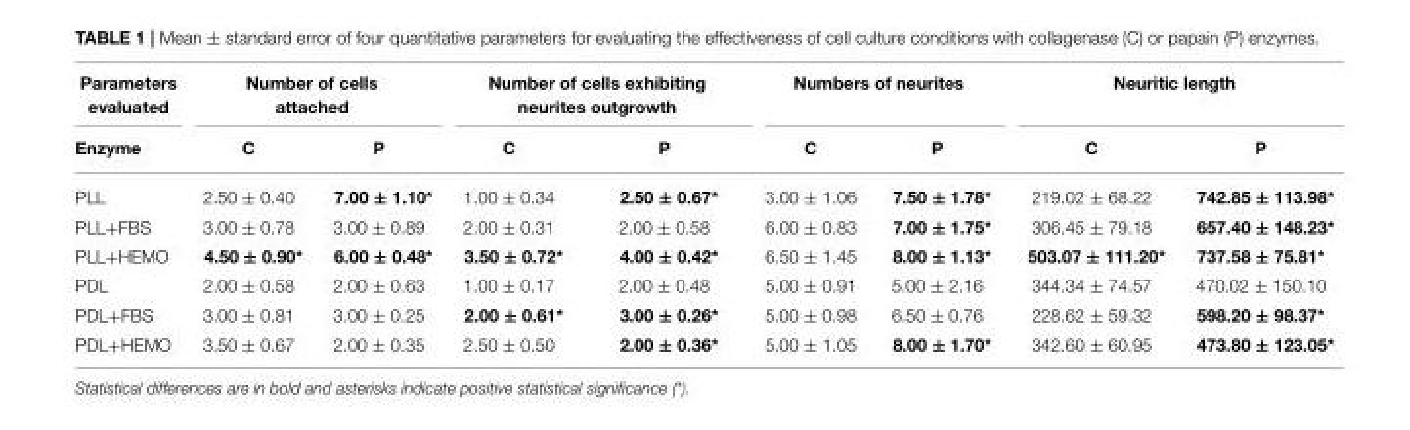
<table><thead><tr><td rowspan="2">Parameters evaluated Enzyme</td><td colspan="2">Number of cells attached</td><td colspan="2">Number of cells exhibiting neurites outgrowth</td><td colspan="2">Numbers of neurites</td><td colspan="2">Neuritic length</td></tr><tr><td>C</td><td>P</td><td>C</td><td>P</td><td>C</td><td>P</td><td>C</td><td>P</td></tr></thead><tbody><tr><td>PLL</td><td>2.50 ± 0.40</td><td>7.00 ± 1.10*</td><td>1.00 ± 0.34</td><td>2.50 ± 0.67*</td><td>3.00 ± 1.06</td><td>7.50 ± 1.78*</td><td>219.02 ± 68.22</td><td>742.85 ± 113.98*</td></tr><tr><td>PLL+FBS</td><td>3.00 ± 0.78</td><td>3.00 ± 0.89</td><td>2.00 ± 0.31</td><td>2.00 ± 0.58</td><td>6.00 ± 0.83</td><td>7.00 ± 1.75*</td><td>306.45 ± 79.18</td><td>657.40 ± 148.23*</td></tr><tr><td>PLL+HEMO</td><td>4.50 ± 0.90*</td><td>6.00 ± 0.48*</td><td>3.50 ± 0.72*</td><td>4.00 ± 0.42*</td><td>6.50 ± 1.45</td><td>8.00 ± 1.13*</td><td>503.07 ± 111.20*</td><td>737.58 ± 75.81*</td></tr><tr><td>PDL</td><td>2.00 ± 0.58</td><td>2.00 ± 0.63</td><td>1.00 ± 0.17</td><td>2.00 ± 0.48</td><td>5.00 ± 0.91</td><td>5.00 ± 2.16</td><td>344.34 ± 74.57</td><td>470.02 ± 150.10</td></tr><tr><td>PDL+FBS</td><td>3.00 ± 0.81</td><td>3.00 ± 0.25</td><td>2.00 ± 0.61*</td><td>3.00 ± 0.26*</td><td>5.00 ± 0.98</td><td>6.50 ± 0.76</td><td>228.62 ± 59.32</td><td>598.20 ± 98.37*</td></tr><tr><td>PDL+HEMO</td><td>3.50 ± 0.67</td><td>2.00 ± 0.35</td><td>2.50 ± 0.50</td><td>2.00 ± 0.36*</td><td>5.00 ± 1.05</td><td>8.00 ± 1.70*</td><td>342.60 ± 60.95</td><td>473.80 ± 123.05*</td></tr></tbody></table>